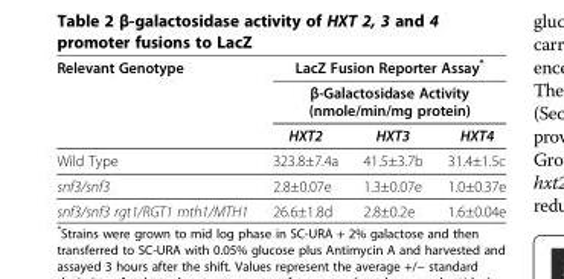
<table><thead><tr><td rowspan="3">Relevant Genotype</td><td rowspan="2" colspan="3">LacZ Fusion Reporter Assay* β-Galactosidase Activity (nmole/min/mg protein)</td></tr><tr></tr><tr><td>HXT2</td><td>HXT3</td><td>HXT4</td></tr></thead><tbody><tr><td>Wild Type</td><td>323.8±7.4a</td><td>41.5±3.7b</td><td>31.4±1.5c</td></tr><tr><td>snf3/snf3</td><td>2.8±0.07e</td><td>1.3±0.07e</td><td>1.0±0.37e</td></tr><tr><td>snf3/snf3 rgt1/RGT1 mth1/MTH1</td><td>26.6±1.8d</td><td>2.8±0.2e</td><td>1.6±0.04e</td></tr></tbody></table>